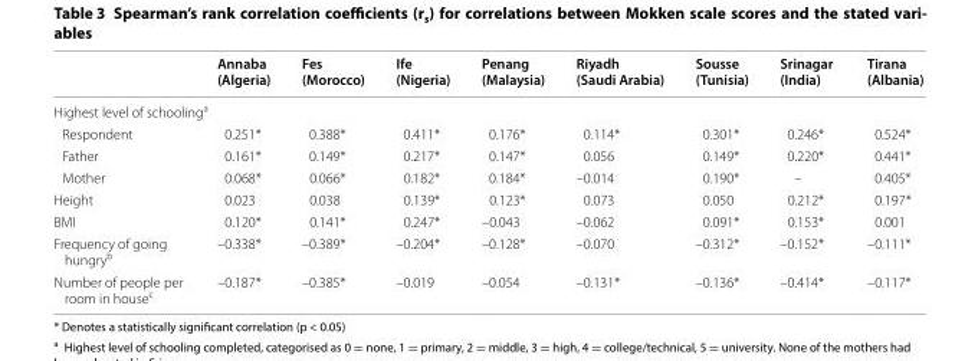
<table><thead><tr><td></td><td>Annaba (Algeria)</td><td>Fes (Morocco)</td><td>Ife (Nigeria)</td><td>Penang (Malaysia)</td><td>Riyadh (Saudi Arabia)</td><td>Sousse (Tunisia)</td><td>Srinagar (India)</td><td>Tirana (Albania)</td></tr></thead><tbody><tr><td colspan="9">Highest level of schooling<sup>a</sup></td></tr><tr><td>Respondent</td><td>0.251*</td><td>0.388*</td><td>0.411*</td><td>0.176*</td><td>0.114*</td><td>0.301*</td><td>0.246*</td><td>0.524*</td></tr><tr><td>Father</td><td>0.161*</td><td>0.149*</td><td>0.217*</td><td>0.147*</td><td>0.056</td><td>0.149*</td><td>0.220*</td><td>0.441*</td></tr><tr><td>Mother</td><td>0.068*</td><td>0.066*</td><td>0.182*</td><td>0.184*</td><td>–0.014</td><td>0.190*</td><td>–</td><td>0.405*</td></tr><tr><td>Height</td><td>0.023</td><td>0.038</td><td>0.139*</td><td>0.123*</td><td>0.073</td><td>0.050</td><td>0.212*</td><td>0.197*</td></tr><tr><td>BMI</td><td>0.120*</td><td>0.141*</td><td>0.247*</td><td>–0.043</td><td>–0.062</td><td>0.091*</td><td>0.153*</td><td>0.001</td></tr><tr><td>Frequency of going hungry<sup>b</sup></td><td>–0.338*</td><td>–0.389*</td><td>–0.204*</td><td>–0.128*</td><td>–0.070</td><td>–0.312*</td><td>–0.152*</td><td>–0.111*</td></tr><tr><td>Number of people per room in house<sup>c</sup></td><td>–0.187*</td><td>–0.385*</td><td>–0.019</td><td>–0.054</td><td>–0.131*</td><td>–0.136*</td><td>–0.414*</td><td>–0.117*</td></tr></tbody></table>